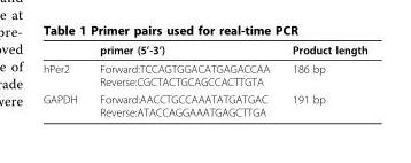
<table><thead><tr><td></td><td>primer (5’-3’)</td><td>Product length</td></tr></thead><tbody><tr><td>hPer2</td><td>Forward:TCCAGTGGACATGAGACCAA Reverse:CGCTACTGCAGCCACTTGTA</td><td>186 bp</td></tr><tr><td>GAPDH</td><td>Forward:AACCTGCCAAATATGATGAC Reverse:ATACCAGGAAATGAGCTTGA</td><td>191 bp</td></tr></tbody></table>